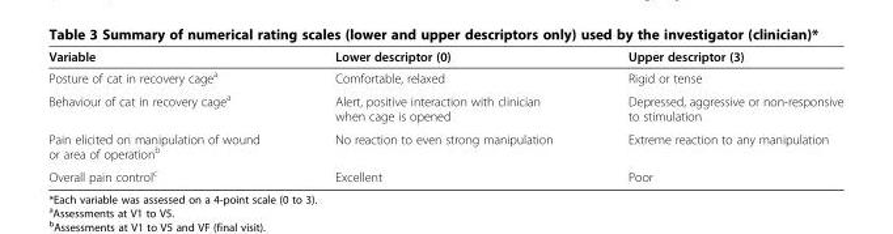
<table><thead><tr><td>Variable</td><td>Lower descriptor (0)</td><td>Upper descriptor (3)</td></tr></thead><tbody><tr><td>Posture of cat in recovery cage<sup>a</sup></td><td>Comfortable, relaxed</td><td>Rigid or tense</td></tr><tr><td>Behaviour of cat in recovery cage<sup>a</sup></td><td>Alert, positive interaction with clinician when cage is opened</td><td>Depressed, aggressive or non-responsive to stimulation</td></tr><tr><td>Pain elicited on manipulation of wound or area of operation<sup>b</sup></td><td>No reaction to even strong manipulation</td><td>Extreme reaction to any manipulation</td></tr><tr><td>Overall pain control<sup>c</sup></td><td>Excellent</td><td>Poor</td></tr></tbody></table>